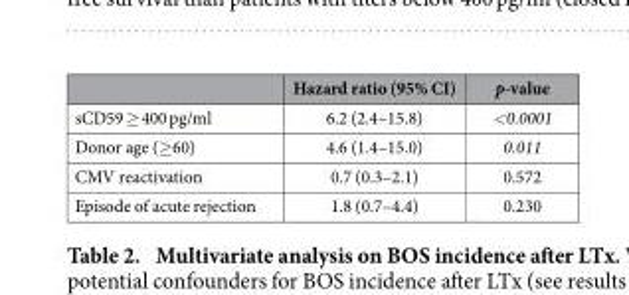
<table><thead><tr><td></td><td>Hazard ratio (95% CI)</td><td>p-value</td></tr></thead><tbody><tr><td>sCD59 ≥ 400 pg/ml</td><td>6.2 (2.4–15.8)</td><td>&lt;0.0001</td></tr><tr><td>Donor age (≥60)</td><td>4.6 (1.4–15.0)</td><td>0.011</td></tr><tr><td>CMV reactivation</td><td>0.7 (0.3–2.1)</td><td>0.572</td></tr><tr><td>Episode of acute rejection</td><td>1.8 (0.7–4.4)</td><td>0.230</td></tr></tbody></table>